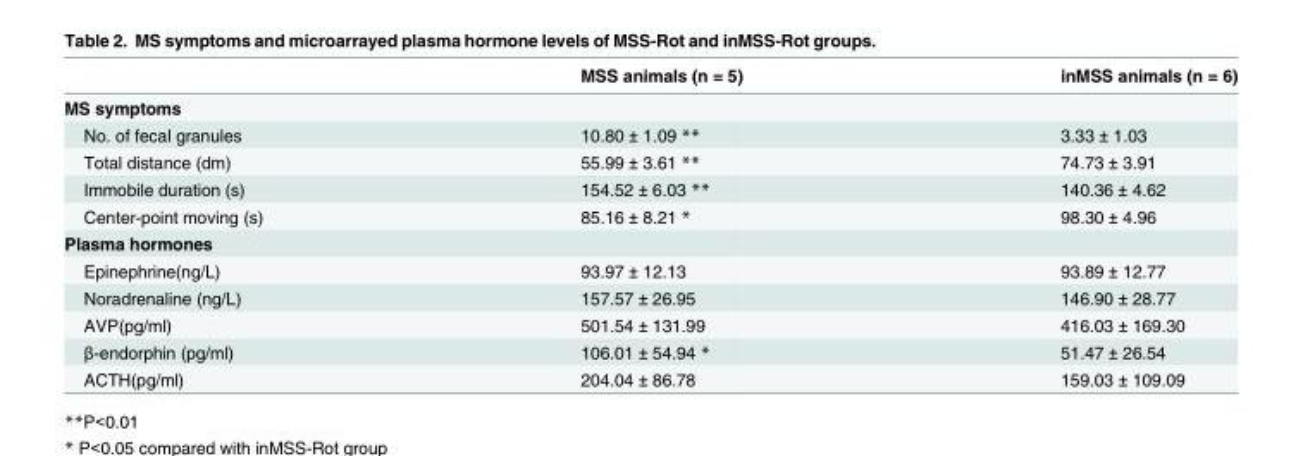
<table><thead><tr><td></td><td>MSS animals (n = 5)</td><td>inMSS animals (n = 6)</td></tr></thead><tbody><tr><td colspan="3">MS symptoms</td></tr><tr><td>No. of fecal granules</td><td>10.80 ± 1.09 **</td><td>3.33 ± 1.03</td></tr><tr><td>Total distance (dm)</td><td>55.99 ± 3.61 **</td><td>74.73 ± 3.91</td></tr><tr><td>Immobile duration (s)</td><td>154.52 ± 6.03 **</td><td>140.36 ± 4.62</td></tr><tr><td>Center-point moving (s)</td><td>85.16 ± 8.21 *</td><td>98.30 ± 4.96</td></tr><tr><td colspan="3">Plasma hormones</td></tr><tr><td>Epinephrine(ng/L)</td><td>93.97 ± 12.13</td><td>93.89 ± 12.77</td></tr><tr><td>Noradrenaline (ng/L)</td><td>157.57 ± 26.95</td><td>146.90 ± 28.77</td></tr><tr><td>AVP(pg/ml)</td><td>501.54 ± 131.99</td><td>416.03 ± 169.30</td></tr><tr><td>β-endorphin (pg/ml)</td><td>106.01 ± 54.94 *</td><td>51.47 ± 26.54</td></tr><tr><td>ACTH(pg/ml)</td><td>204.04 ± 86.78</td><td>159.03 ± 109.09</td></tr></tbody></table>